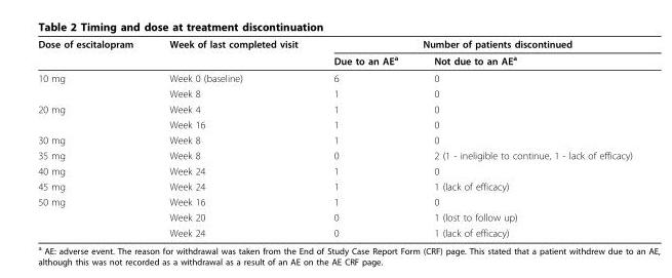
<table><thead><tr><td rowspan="2">Dose of escitalopram</td><td rowspan="2">Week of last completed visit</td><td colspan="2">Number of patients discontinued</td></tr><tr><td>Due to an AE<sup>a</sup></td><td>Not due to an AE<sup>a</sup></td></tr></thead><tbody><tr><td rowspan="2">10 mg</td><td>Week 0 (baseline)</td><td>6</td><td>0</td></tr><tr><td>Week 8</td><td>1</td><td>0</td></tr><tr><td rowspan="2">20 mg</td><td>Week 4</td><td>1</td><td>0</td></tr><tr><td>Week 16</td><td>1</td><td>0</td></tr><tr><td>30 mg</td><td>Week 8</td><td>1</td><td>0</td></tr><tr><td>35 mg</td><td>Week 8</td><td>0</td><td>2 (1 - ineligible to continue, 1 - lack of efficacy)</td></tr><tr><td>40 mg</td><td>Week 24</td><td>1</td><td>0</td></tr><tr><td>45 mg</td><td>Week 24</td><td>1</td><td>1 (lack of efficacy)</td></tr><tr><td rowspan="3">50 mg</td><td>Week 16</td><td>1</td><td>0</td></tr><tr><td>Week 20</td><td>0</td><td>1 (lost to follow up)</td></tr><tr><td>Week 24</td><td>0</td><td>1 (lack of efficacy)</td></tr></tbody></table>